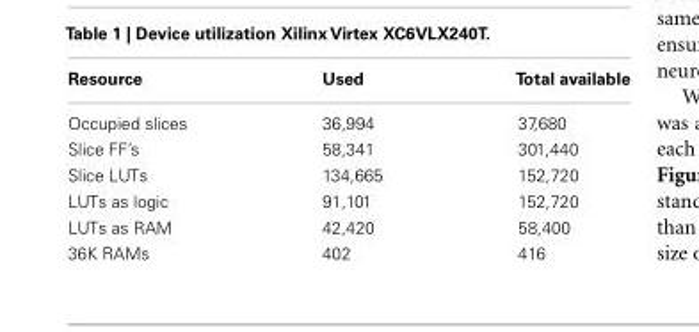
<table><thead><tr><td>Resource</td><td>Used</td><td>Total available</td></tr></thead><tbody><tr><td>Occupied slices</td><td>36,994</td><td>37,680</td></tr><tr><td>Slice FF’s</td><td>58,341</td><td>301,440</td></tr><tr><td>Slice LUTs</td><td>134,665</td><td>152,720</td></tr><tr><td>LUTs as logic</td><td>91,101</td><td>152,720</td></tr><tr><td>LUTs as RAM</td><td>42,420</td><td>58,400</td></tr><tr><td>36K RAMs</td><td>402</td><td>416</td></tr></tbody></table>